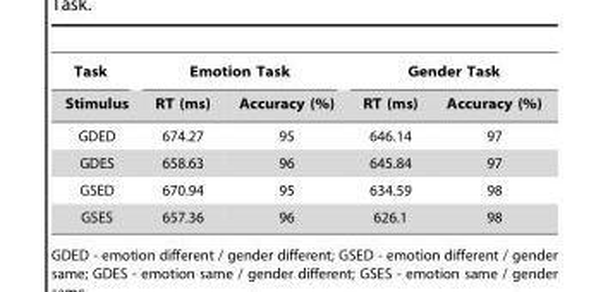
<table><thead><tr><td rowspan="2">Task Stimulus</td><td colspan="2">Emotion Task</td><td colspan="2">Gender Task</td></tr><tr><td>RT (ms)</td><td>Accuracy (%)</td><td>RT (ms)</td><td>Accuracy (%)</td></tr></thead><tbody><tr><td>GDED</td><td>674.27</td><td>95</td><td>646.14</td><td>97</td></tr><tr><td>GDES</td><td>658.63</td><td>96</td><td>645.84</td><td>97</td></tr><tr><td>GSED</td><td>670.94</td><td>95</td><td>634.59</td><td>98</td></tr><tr><td>GSES</td><td>657.36</td><td>96</td><td>626.1</td><td>98</td></tr></tbody></table>